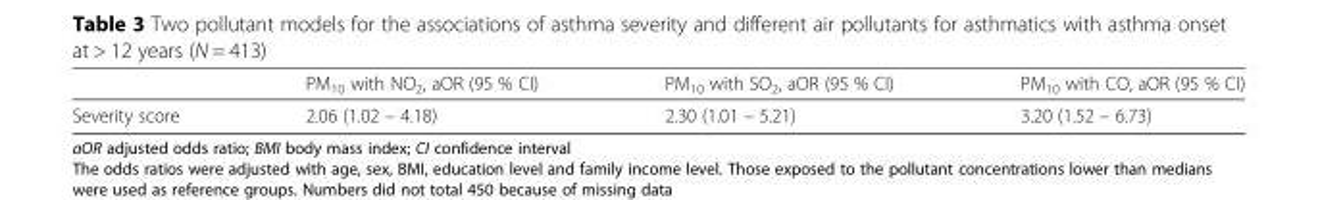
<table><thead><tr><td></td><td>PM<sub>10</sub> with NO<sub>2</sub>, aOR (95 % CI)</td><td>PM<sub>10</sub> with SO<sub>2</sub>, aOR (95 % CI)</td><td>PM<sub>10</sub> with CO, aOR (95 % CI)</td></tr></thead><tbody><tr><td>Severity score</td><td>2.06 (1.02 – 4.18)</td><td>2.30 (1.01 – 5.21)</td><td>3.20 (1.52 – 6.73)</td></tr></tbody></table>